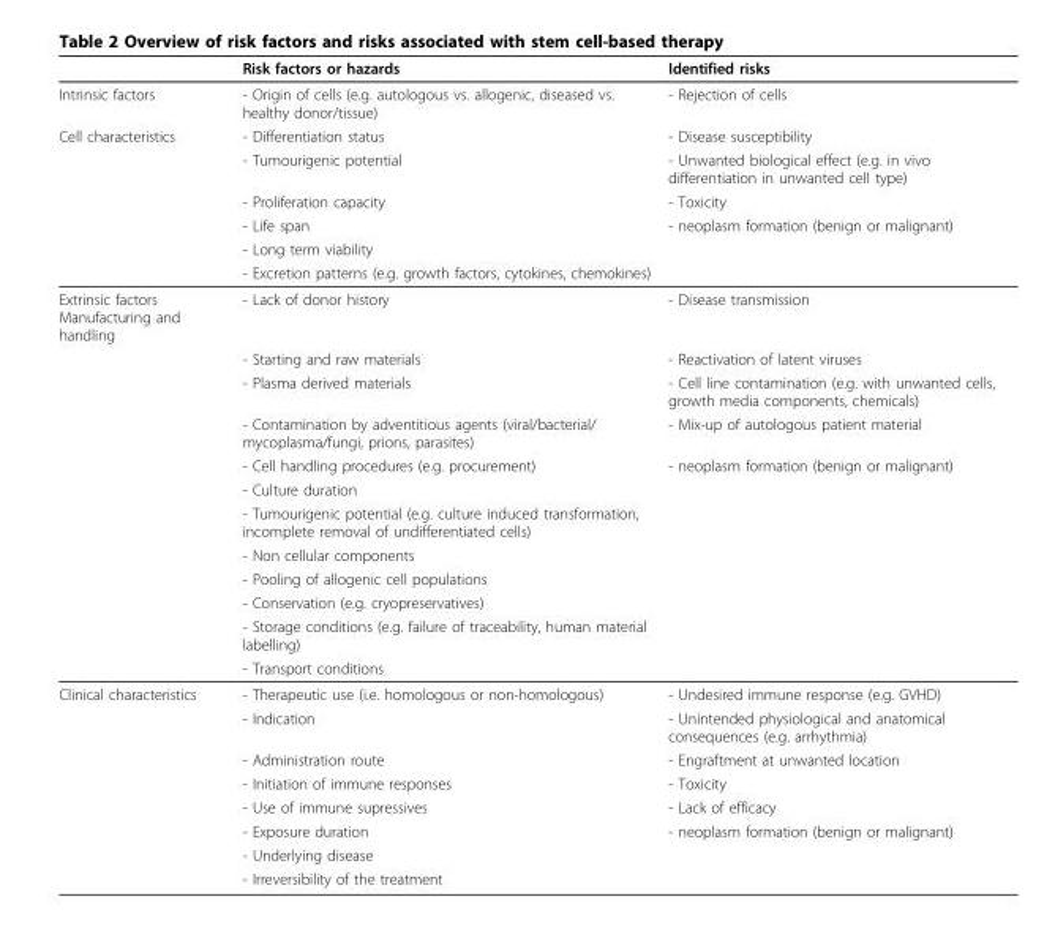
<table><thead><tr><td></td><td>Risk factors or hazards</td><td>Identified risks</td></tr></thead><tbody><tr><td>Intrinsic factors</td><td>- Origin of cells (e.g. autologous vs. allogenic, diseased vs. healthy donor/tissue)</td><td>- Rejection of cells</td></tr><tr><td rowspan="6">Cell characteristics</td><td>- Differentiation status</td><td>- Disease susceptibility</td></tr><tr><td>- Tumourigenic potential</td><td>- Unwanted biological effect (e.g. in vivo differentiation in unwanted cell type)</td></tr><tr><td>- Proliferation capacity</td><td>- Toxicity</td></tr><tr><td>- Life span</td><td>- neoplasm formation (benign or malignant)</td></tr><tr><td>- Long term viability</td><td></td></tr><tr><td>- Excretion patterns (e.g. growth factors, cytokines, chemokines)</td><td></td></tr><tr><td rowspan="12">Extrinsic factors Manufacturing and handling</td><td>- Lack of donor history</td><td>- Disease transmission</td></tr><tr><td>- Starting and raw materials</td><td>- Reactivation of latent viruses</td></tr><tr><td>- Plasma derived materials</td><td>- Cell line contamination (e.g. with unwanted cells, growth media components, chemicals)</td></tr><tr><td>- Contamination by adventitious agents (viral/bacterial/ mycoplasma/fungi, prions, parasites)</td><td>- Mix-up of autologous patient material</td></tr><tr><td>- Cell handling procedures (e.g. procurement)</td><td>- neoplasm formation (benign or malignant)</td></tr><tr><td>- Culture duration</td><td></td></tr><tr><td>- Tumourigenic potential (e.g. culture induced transformation, incomplete removal of undifferentiated cells)</td><td></td></tr><tr><td>- Non cellular components</td><td></td></tr><tr><td>- Pooling of allogenic cell populations</td><td></td></tr><tr><td>- Conservation (e.g. cryopreservatives)</td><td></td></tr><tr><td>- Storage conditions (e.g. failure of traceability, human material labelling)</td><td></td></tr><tr><td>- Transport conditions</td><td></td></tr><tr><td rowspan="8">Clinical characteristics</td><td>- Therapeutic use (i.e. homologous or non-homologous)</td><td>- Undesired immune response (e.g. GVHD)</td></tr><tr><td>- Indication</td><td>- Unintended physiological and anatomical consequences (e.g. arrhythmia)</td></tr><tr><td>- Administration route</td><td>- Engraftment at unwanted location</td></tr><tr><td>- Initiation of immune responses</td><td>- Toxicity</td></tr><tr><td>- Use of immune supressives</td><td>- Lack of efficacy</td></tr><tr><td>- Exposure duration</td><td>- neoplasm formation (benign or malignant)</td></tr><tr><td>- Underlying disease</td><td></td></tr><tr><td>- Irreversibility of the treatment</td><td></td></tr></tbody></table>